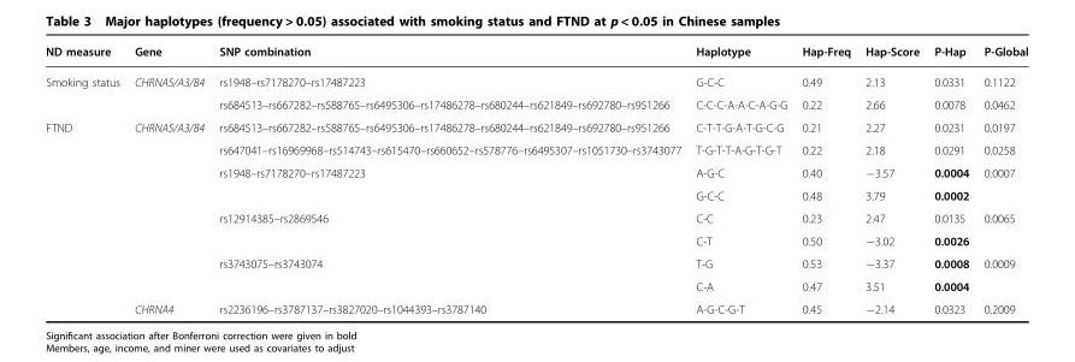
<table><thead><tr><td>ND measure</td><td>Gene</td><td>SNP combination</td><td>Haplotype</td><td>Hap-Freq</td><td>Hap-Score</td><td>P-Hap</td><td>P-Global</td></tr></thead><tbody><tr><td rowspan="2">Smoking status</td><td rowspan="2">CHRNA5/A3/B4</td><td>rs1948–rs7178270–rs17487223</td><td>G-C-C</td><td>0.49</td><td>2.13</td><td>0.0331</td><td>0.1122</td></tr><tr><td>rs684513–rs667282–rs588765–rs6495306–rs17486278–rs680244–rs621849–rs692780–rs951266</td><td>C-C-C-A-A-C-A-G-G</td><td>0.22</td><td>2.66</td><td>0.0078</td><td>0.0462</td></tr><tr><td rowspan="9">FTND</td><td rowspan="8">CHRNA5/A3/B4</td><td>rs684513–rs667282–rs588765–rs6495306–rs17486278–rs680244–rs621849–rs692780–rs951266</td><td>C-T-T-G-A-T-G-C-G</td><td>0.21</td><td>2.27</td><td>0.0231</td><td>0.0197</td></tr><tr><td>rs647041–rs16969968–rs514743–rs615470–rs660652–rs578776–rs6495307–rs1051730–rs3743077</td><td>T-G-T-T-A-G-T-G-T</td><td>0.22</td><td>2.18</td><td>0.0291</td><td>0.0258</td></tr><tr><td rowspan="2">rs1948–rs7178270–rs17487223</td><td>A-G-C</td><td>0.40</td><td>−3.57</td><td>0.0004</td><td>0.0007</td></tr><tr><td>G-C-C</td><td>0.48</td><td>3.79</td><td>0.0002</td><td></td></tr><tr><td rowspan="2">rs12914385–rs2869546</td><td>C-C</td><td>0.23</td><td>2.47</td><td>0.0135</td><td>0.0065</td></tr><tr><td>C-T</td><td>0.50</td><td>−3.02</td><td>0.0026</td><td></td></tr><tr><td rowspan="2">rs3743075–rs3743074</td><td>T-G</td><td>0.53</td><td>−3.37</td><td>0.0008</td><td>0.0009</td></tr><tr><td>C-A</td><td>0.47</td><td>3.51</td><td>0.0004</td><td></td></tr><tr><td>CHRNA4</td><td>rs2236196–rs3787137–rs3827020–rs1044393–rs3787140</td><td>A-G-C-G-T</td><td>0.45</td><td>−2.14</td><td>0.0323</td><td>0.2009</td></tr></tbody></table>